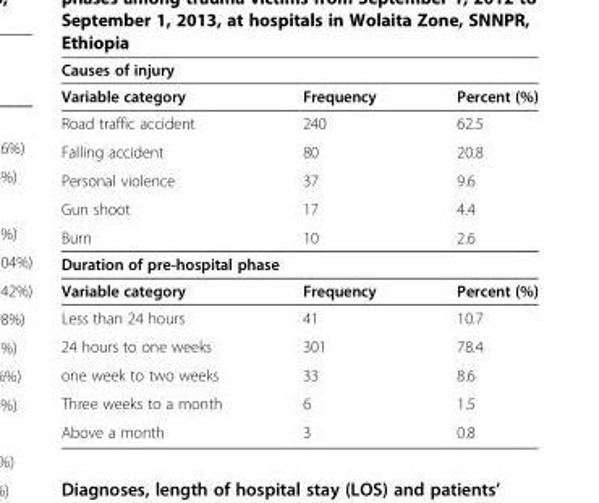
<table><thead><tr><td colspan="3">Causes of injury</td></tr><tr><td>Variable category</td><td>Frequency</td><td>Percent (%)</td></tr></thead><tbody><tr><td>Road traffic accident</td><td>240</td><td>62.5</td></tr><tr><td>Falling accident</td><td>80</td><td>20.8</td></tr><tr><td>Personal violence</td><td>37</td><td>9.6</td></tr><tr><td>Gun shoot</td><td>17</td><td>4.4</td></tr><tr><td>Burn</td><td>10</td><td>2.6</td></tr><tr><td colspan="3">Duration of pre-hospital phase</td></tr><tr><td>Variable category</td><td>Frequency</td><td>Percent (%)</td></tr><tr><td>Less than 24 hours</td><td>41</td><td>10.7</td></tr><tr><td>24 hours to one weeks</td><td>301</td><td>78.4</td></tr><tr><td>one week to two weeks</td><td>33</td><td>8.6</td></tr><tr><td>Three weeks to a month</td><td>6</td><td>1.5</td></tr><tr><td>Above a month</td><td>3</td><td>0.8</td></tr></tbody></table>